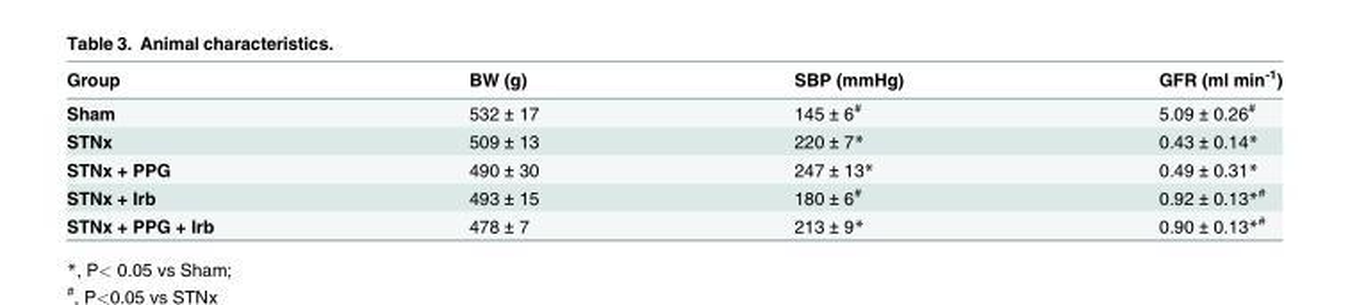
<table><thead><tr><td>Group</td><td>BW (g)</td><td>SBP (mmHg)</td><td>GFR (ml min<sup>-1</sup>)</td></tr></thead><tbody><tr><td>Sham</td><td>532 ± 17</td><td>145 ± 6<sup>#</sup></td><td>5.09 ± 0.26<sup>#</sup></td></tr><tr><td>STNx</td><td>509 ± 13</td><td>220 ± 7*</td><td>0.43 ± 0.14*</td></tr><tr><td>STNx + PPG</td><td>490 ± 30</td><td>247 ± 13*</td><td>0.49 ± 0.31*</td></tr><tr><td>STNx + Irb</td><td>493 ± 15</td><td>180 ± 6<sup>#</sup></td><td>0.92 ± 0.13*<sup>#</sup></td></tr><tr><td>STNx + PPG + Irb</td><td>478 ± 7</td><td>213 ± 9*</td><td>0.90 ± 0.13*<sup>#</sup></td></tr></tbody></table>